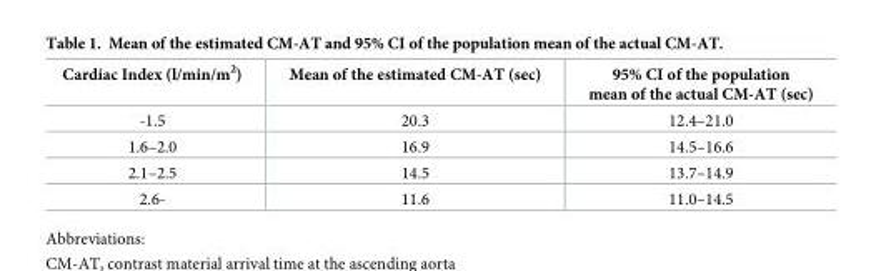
<table><thead><tr><td>Cardiac Index (l/min/m<sup>2</sup>)</td><td>Mean of the estimated CM-AT (sec)</td><td>95% CI of the population mean of the actual CM-AT (sec)</td></tr></thead><tbody><tr><td>-1.5</td><td>20.3</td><td>12.4–21.0</td></tr><tr><td>1.6–2.0</td><td>16.9</td><td>14.5–16.6</td></tr><tr><td>2.1–2.5</td><td>14.5</td><td>13.7–14.9</td></tr><tr><td>2.6-</td><td>11.6</td><td>11.0–14.5</td></tr></tbody></table>